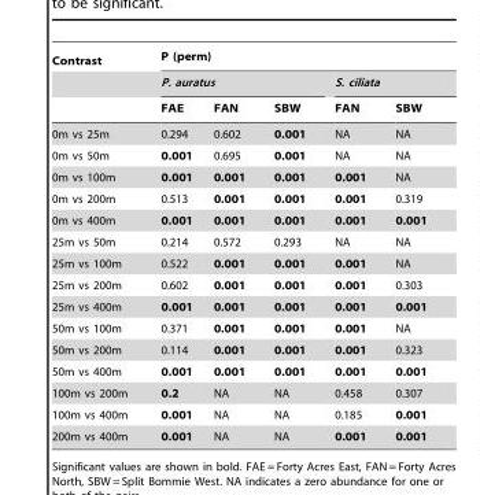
<table><thead><tr><td rowspan="3">Contrast</td><td colspan="5">P (perm)</td></tr><tr><td colspan="3">P. auratus</td><td colspan="2">S. ciliata</td></tr><tr><td>FAE</td><td>FAN</td><td>SBW</td><td>FAN</td><td>SBW</td></tr></thead><tbody><tr><td>0m vs 25m</td><td>0.294</td><td>0.602</td><td>0.001</td><td>NA</td><td>NA</td></tr><tr><td>0m vs 50m</td><td>0.001</td><td>0.695</td><td>0.001</td><td>NA</td><td>NA</td></tr><tr><td>0m vs 100m</td><td>0.001</td><td>0.001</td><td>0.001</td><td>0.001</td><td>NA</td></tr><tr><td>0m vs 200m</td><td>0.513</td><td>0.001</td><td>0.001</td><td>0.001</td><td>0.319</td></tr><tr><td>0m vs 400m</td><td>0.001</td><td>0.001</td><td>0.001</td><td>0.001</td><td>0.001</td></tr><tr><td>25m vs 50m</td><td>0.214</td><td>0.572</td><td>0.293</td><td>NA</td><td>NA</td></tr><tr><td>25m vs 100m</td><td>0.522</td><td>0.001</td><td>0.001</td><td>0.001</td><td>NA</td></tr><tr><td>25m vs 200m</td><td>0.602</td><td>0.001</td><td>0.001</td><td>0.001</td><td>0.303</td></tr><tr><td>25m vs 400m</td><td>0.001</td><td>0.001</td><td>0.001</td><td>0.001</td><td>0.001</td></tr><tr><td>50m vs 100m</td><td>0.371</td><td>0.001</td><td>0.001</td><td>0.001</td><td>NA</td></tr><tr><td>50m vs 200m</td><td>0.114</td><td>0.001</td><td>0.001</td><td>0.001</td><td>0.323</td></tr><tr><td>50m vs 400m</td><td>0.001</td><td>0.001</td><td>0.001</td><td>0.001</td><td>0.001</td></tr><tr><td>100m vs 200m</td><td>0.2</td><td>NA</td><td>NA</td><td>0.458</td><td>0.307</td></tr><tr><td>100m vs 400m</td><td>0.001</td><td>NA</td><td>NA</td><td>0.185</td><td>0.001</td></tr><tr><td>200m vs 400m</td><td>0.001</td><td>NA</td><td>NA</td><td>0.001</td><td>0.001</td></tr></tbody></table>